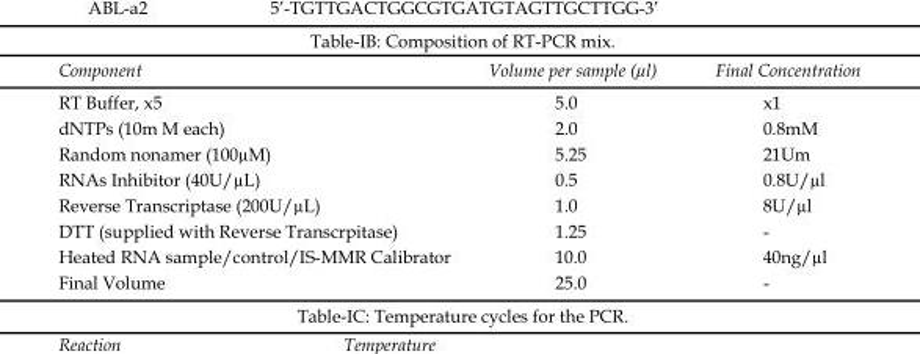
<table><thead><tr><td>Component</td><td>Volume per sample (µl)</td><td>Final Concentration</td></tr></thead><tbody><tr><td>RT Buffer, x5</td><td>5.0</td><td>x1</td></tr><tr><td>dNTPs (10m M each)</td><td>2.0</td><td>0.8mM</td></tr><tr><td>Random nonamer (100µM)</td><td>5.25</td><td>21Um</td></tr><tr><td>RNAs Inhibitor (40U/µL)</td><td>0.5</td><td>0.8U/µl</td></tr><tr><td>Reverse Transcriptase (200U/µL)</td><td>1.0</td><td>8U/µl</td></tr><tr><td>DTT (supplied with Reverse Transcrpitase)</td><td>1.25</td><td>-</td></tr><tr><td>Heated RNA sample/control/IS-MMR Calibrator</td><td>10.0</td><td>40ng/µl</td></tr><tr><td>Final Volume</td><td>25.0</td><td>-</td></tr></tbody></table>